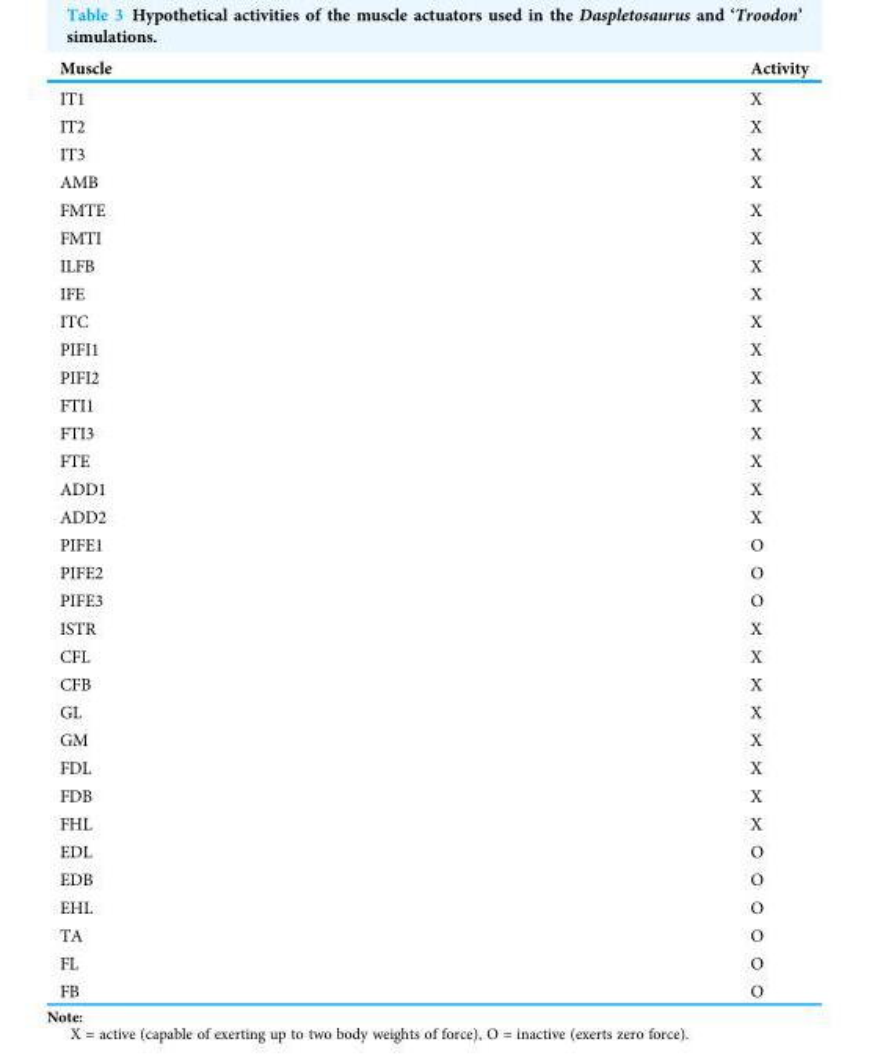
<table><thead><tr><td>Muscle</td><td>Activity</td></tr></thead><tbody><tr><td>IT1</td><td>X</td></tr><tr><td>IT2</td><td>X</td></tr><tr><td>IT3</td><td>X</td></tr><tr><td>AMB</td><td>X</td></tr><tr><td>FMTE</td><td>X</td></tr><tr><td>FMTI</td><td>X</td></tr><tr><td>ILFB</td><td>X</td></tr><tr><td>IFE</td><td>X</td></tr><tr><td>ITC</td><td>X</td></tr><tr><td>PIFI1</td><td>X</td></tr><tr><td>PIFI2</td><td>X</td></tr><tr><td>FTI1</td><td>X</td></tr><tr><td>FTI3</td><td>X</td></tr><tr><td>FTE</td><td>X</td></tr><tr><td>ADD1</td><td>X</td></tr><tr><td>ADD2</td><td>X</td></tr><tr><td>PIFE1</td><td>O</td></tr><tr><td>PIFE2</td><td>O</td></tr><tr><td>PIFE3</td><td>O</td></tr><tr><td>ISTR</td><td>X</td></tr><tr><td>CFL</td><td>X</td></tr><tr><td>CFB</td><td>X</td></tr><tr><td>GL</td><td>X</td></tr><tr><td>GM</td><td>X</td></tr><tr><td>FDL</td><td>X</td></tr><tr><td>FDB</td><td>X</td></tr><tr><td>FHL</td><td>X</td></tr><tr><td>EDL</td><td>O</td></tr><tr><td>EDB</td><td>O</td></tr><tr><td>EHL</td><td>O</td></tr><tr><td>TA</td><td>O</td></tr><tr><td>FL</td><td>O</td></tr><tr><td>FB</td><td>O</td></tr></tbody></table>